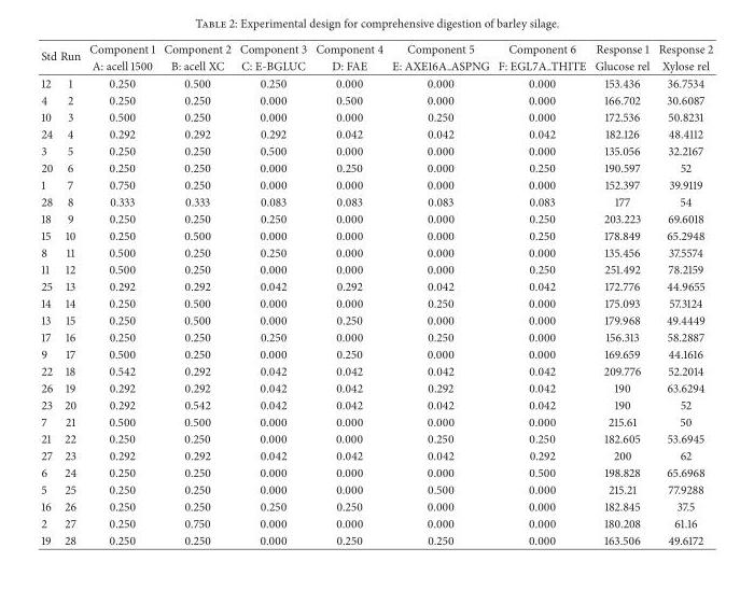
<table><thead><tr><td rowspan="2">Std</td><td rowspan="2">Run</td><td rowspan="2">Component 1 A: acell 1500</td><td rowspan="2">Component 2 B: acell XC</td><td rowspan="2">Component 3 C: E-BGLUC</td><td rowspan="2">Component 4 D: FAE</td><td rowspan="2">Component 5 E: AXE16A ASPNG</td><td rowspan="2">Component 6 F: EGL7A THITE</td><td rowspan="2">Response 1 Glucose rel</td><td rowspan="2">Response 2 Xylose rel</td></tr><tr></tr></thead><tbody><tr><td>12</td><td>1</td><td>0.250</td><td>0.500</td><td>0.250</td><td>0.000</td><td>0.000</td><td>0.000</td><td>153.436</td><td>36.7534</td></tr><tr><td>4</td><td>2</td><td>0.250</td><td>0.250</td><td>0.000</td><td>0.500</td><td>0.000</td><td>0.000</td><td>166.702</td><td>30.6087</td></tr><tr><td>10</td><td>3</td><td>0.500</td><td>0.250</td><td>0.000</td><td>0.000</td><td>0.250</td><td>0.000</td><td>172.536</td><td>50.8231</td></tr><tr><td>24</td><td>4</td><td>0.292</td><td>0.292</td><td>0.292</td><td>0.042</td><td>0.042</td><td>0.042</td><td>182.126</td><td>48.4112</td></tr><tr><td>3</td><td>5</td><td>0.250</td><td>0.250</td><td>0.500</td><td>0.000</td><td>0.000</td><td>0.000</td><td>135.056</td><td>32.2167</td></tr><tr><td>20</td><td>6</td><td>0.250</td><td>0.250</td><td>0.000</td><td>0.250</td><td>0.000</td><td>0.250</td><td>190.597</td><td>52</td></tr><tr><td>1</td><td>7</td><td>0.750</td><td>0.250</td><td>0.000</td><td>0.000</td><td>0.000</td><td>0.000</td><td>152.397</td><td>39.9119</td></tr><tr><td>28</td><td>8</td><td>0.333</td><td>0.333</td><td>0.083</td><td>0.083</td><td>0.083</td><td>0.083</td><td>177</td><td>54</td></tr><tr><td>18</td><td>9</td><td>0.250</td><td>0.250</td><td>0.250</td><td>0.000</td><td>0.000</td><td>0.250</td><td>203.223</td><td>69.6018</td></tr><tr><td>15</td><td>10</td><td>0.250</td><td>0.500</td><td>0.000</td><td>0.000</td><td>0.000</td><td>0.250</td><td>178.849</td><td>65.2948</td></tr><tr><td>8</td><td>11</td><td>0.500</td><td>0.250</td><td>0.250</td><td>0.000</td><td>0.000</td><td>0.000</td><td>135.456</td><td>37.5574</td></tr><tr><td>11</td><td>12</td><td>0.500</td><td>0.250</td><td>0.000</td><td>0.000</td><td>0.000</td><td>0.250</td><td>251.492</td><td>78.2159</td></tr><tr><td>25</td><td>13</td><td>0.292</td><td>0.292</td><td>0.042</td><td>0.292</td><td>0.042</td><td>0.042</td><td>172.776</td><td>44.9655</td></tr><tr><td>14</td><td>14</td><td>0.250</td><td>0.500</td><td>0.000</td><td>0.000</td><td>0.250</td><td>0.000</td><td>175.093</td><td>57.3124</td></tr><tr><td>13</td><td>15</td><td>0.250</td><td>0.500</td><td>0.000</td><td>0.250</td><td>0.000</td><td>0.000</td><td>179.968</td><td>49.4449</td></tr><tr><td>17</td><td>16</td><td>0.250</td><td>0.250</td><td>0.250</td><td>0.000</td><td>0.250</td><td>0.000</td><td>156.313</td><td>58.2887</td></tr><tr><td>9</td><td>17</td><td>0.500</td><td>0.250</td><td>0.000</td><td>0.250</td><td>0.000</td><td>0.000</td><td>169.659</td><td>44.1616</td></tr><tr><td>22</td><td>18</td><td>0.542</td><td>0.292</td><td>0.042</td><td>0.042</td><td>0.042</td><td>0.042</td><td>209.776</td><td>52.2014</td></tr><tr><td>26</td><td>19</td><td>0.292</td><td>0.292</td><td>0.042</td><td>0.042</td><td>0.292</td><td>0.042</td><td>190</td><td>63.6294</td></tr><tr><td>23</td><td>20</td><td>0.292</td><td>0.542</td><td>0.042</td><td>0.042</td><td>0.042</td><td>0.042</td><td>190</td><td>52</td></tr><tr><td>7</td><td>21</td><td>0.500</td><td>0.500</td><td>0.000</td><td>0.000</td><td>0.000</td><td>0.000</td><td>215.61</td><td>50</td></tr><tr><td>21</td><td>22</td><td>0.250</td><td>0.250</td><td>0.000</td><td>0.000</td><td>0.250</td><td>0.250</td><td>182.605</td><td>53.6945</td></tr><tr><td>27</td><td>23</td><td>0.292</td><td>0.292</td><td>0.042</td><td>0.042</td><td>0.042</td><td>0.292</td><td>200</td><td>62</td></tr><tr><td>6</td><td>24</td><td>0.250</td><td>0.250</td><td>0.000</td><td>0.000</td><td>0.000</td><td>0.500</td><td>198.828</td><td>65.6968</td></tr><tr><td>5</td><td>25</td><td>0.250</td><td>0.250</td><td>0.000</td><td>0.000</td><td>0.500</td><td>0.000</td><td>215.21</td><td>77.9288</td></tr><tr><td>16</td><td>26</td><td>0.250</td><td>0.250</td><td>0.250</td><td>0.250</td><td>0.000</td><td>0.000</td><td>182.845</td><td>37.5</td></tr><tr><td>2</td><td>27</td><td>0.250</td><td>0.750</td><td>0.000</td><td>0.000</td><td>0.000</td><td>0.000</td><td>180.208</td><td>61.16</td></tr><tr><td>19</td><td>28</td><td>0.250</td><td>0.250</td><td>0.000</td><td>0.250</td><td>0.250</td><td>0.000</td><td>163.506</td><td>49.6172</td></tr></tbody></table>